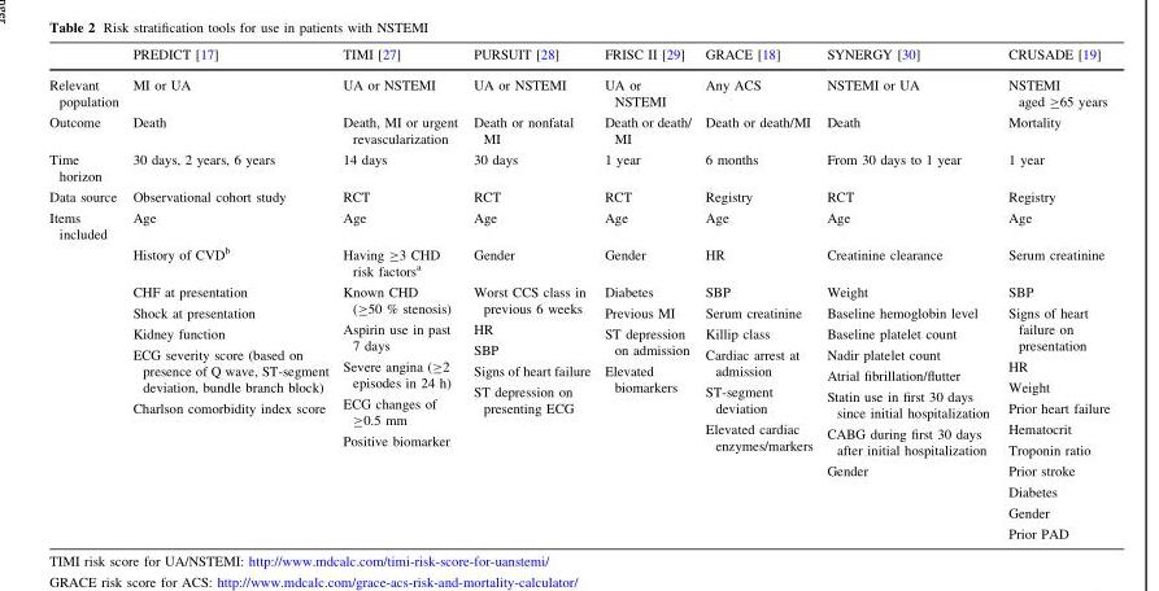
<table><thead><tr><td></td><td>PREDICT [17]</td><td>TIMI [27]</td><td>PURSUIT [28]</td><td>FRISC II [29]</td><td>GRACE [18]</td><td>SYNERGY [30]</td><td>CRUSADE [19]</td></tr></thead><tbody><tr><td>Relevant population</td><td>MI or UA</td><td>UA or NSTEMI</td><td>UA or NSTEMI</td><td>UA or NSTEMI</td><td>Any ACS</td><td>NSTEMI or UA</td><td>NSTEMI aged ≥65 years</td></tr><tr><td>Outcome</td><td>Death</td><td>Death, MI or urgent revascularization</td><td>Death or nonfatal MI</td><td>Death or death/ MI</td><td>Death or death/MI</td><td>Death</td><td>Mortality</td></tr><tr><td>Time horizon</td><td>30 days, 2 years, 6 years</td><td>14 days</td><td>30 days</td><td>1 year</td><td>6 months</td><td>From 30 days to 1 year</td><td>1 year</td></tr><tr><td>Data source</td><td>Observational cohort study</td><td>RCT</td><td>RCT</td><td>RCT</td><td>Registry</td><td>RCT</td><td>Registry</td></tr><tr><td rowspan="3">Items included</td><td>Age</td><td>Age</td><td>Age</td><td>Age</td><td>Age</td><td>Age</td><td>Age</td></tr><tr><td>History of CVD<sup>b</sup></td><td>Having ≥3 CHD risk factors<sup>a</sup></td><td>Gender</td><td>Gender</td><td>HR</td><td>Creatinine clearance</td><td>Serum creatinine</td></tr><tr><td>CHF at presentation Shock at presentation Kidney function ECG severity score (based on presence of Q wave, ST-segment deviation, bundle branch block) Charlson comorbidity index score</td><td>Known CHD (≥50 % stenosis) Aspirin use in past 7 days Severe angina (≥2 episodes in 24 h) ECG changes of ≥0.5 mm Positive biomarker</td><td>Worst CCS class in previous 6 weeks HR SBP Signs of heart failure ST depression on presenting ECG</td><td>Diabetes Previous MI ST depression on admission Elevated biomarkers</td><td>SBP Serum creatinine Killip class Cardiac arrest at admission ST-segment deviation Elevated cardiac enzymes/markers</td><td>Weight Baseline hemoglobin level Baseline platelet count Nadir platelet count Atrial fibrillation/flutter Statin use in first 30 days since initial hospitalization CABG during first 30 days after initial hospitalization Gender</td><td>SBP Signs of heart failure on presentation HR Weight Prior heart failure Hematocrit Troponin ratio Prior stroke Diabetes Gender Prior PAD</td></tr></tbody></table>